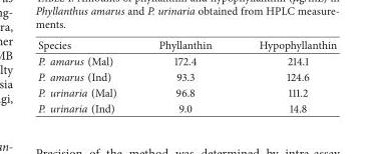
<table><thead><tr><td>Species</td><td>Phyllanthin</td><td>Hypophyllanthin</td></tr></thead><tbody><tr><td>P. amarus (Mal)</td><td>172.4</td><td>214.1</td></tr><tr><td>P. amarus (Ind)</td><td>93.3</td><td>124.6</td></tr><tr><td>P. urinaria (Mal)</td><td>96.8</td><td>111.2</td></tr><tr><td>P. urinaria (Ind)</td><td>9.0</td><td>14.8</td></tr></tbody></table>